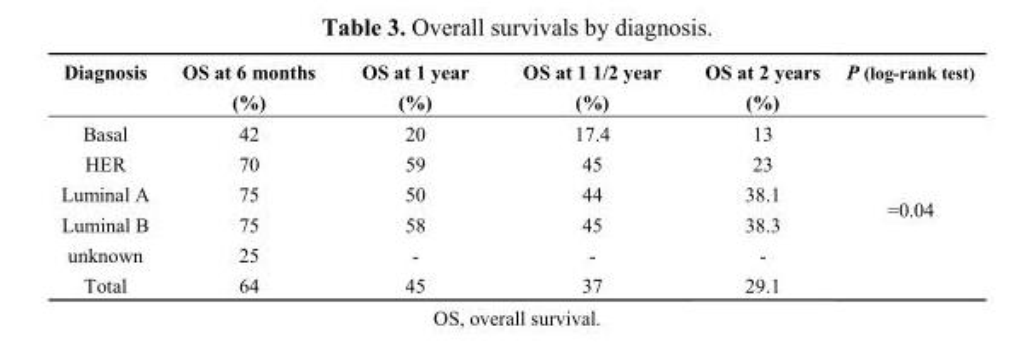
<table><thead><tr><td>Diagnosis</td><td>OS at 6 months (%)</td><td>OS at 1 year (%)</td><td>OS at 1 1/2 year (%)</td><td>OS at 2 years (%)</td><td>P (log-rank test)</td></tr></thead><tbody><tr><td>Basal</td><td>42</td><td>20</td><td>17.4</td><td>13</td><td rowspan="6">=0.04</td></tr><tr><td>HER</td><td>70</td><td>59</td><td>45</td><td>23</td></tr><tr><td>Luminal A</td><td>75</td><td>50</td><td>44</td><td>38.1</td></tr><tr><td>Luminal B</td><td>75</td><td>58</td><td>45</td><td>38.3</td></tr><tr><td>unknown</td><td>25</td><td>-</td><td>-</td><td>-</td></tr><tr><td>Total</td><td>64</td><td>45</td><td>37</td><td>29.1</td></tr></tbody></table>